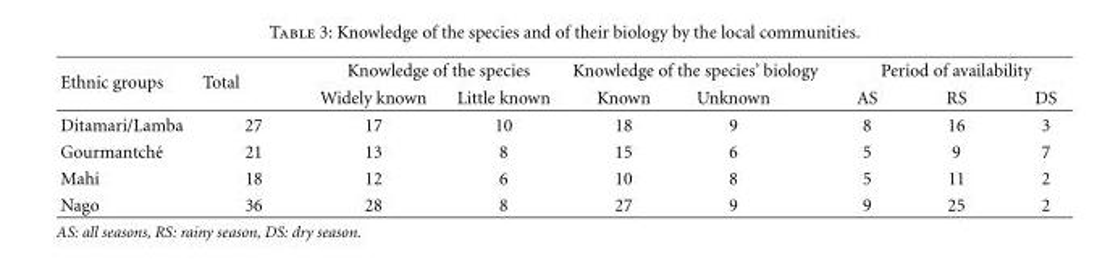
<table><thead><tr><td rowspan="2">Ethnic groups</td><td rowspan="2">Total</td><td colspan="2">Knowledge of the species</td><td colspan="2">Knowledge of the species’ biology</td><td colspan="3">Period of availability</td></tr><tr><td>Widely known</td><td>Little known</td><td>Known</td><td>Unknown</td><td>AS</td><td>RS</td><td>DS</td></tr></thead><tbody><tr><td>Ditamari/Lamba</td><td>27</td><td>17</td><td>10</td><td>18</td><td>9</td><td>8</td><td>16</td><td>3</td></tr><tr><td>Gourmantch´e</td><td>21</td><td>13</td><td>8</td><td>15</td><td>6</td><td>5</td><td>9</td><td>7</td></tr><tr><td>Mahi</td><td>18</td><td>12</td><td>6</td><td>10</td><td>8</td><td>5</td><td>11</td><td>2</td></tr><tr><td>Nago</td><td>36</td><td>28</td><td>8</td><td>27</td><td>9</td><td>9</td><td>25</td><td>2</td></tr></tbody></table>